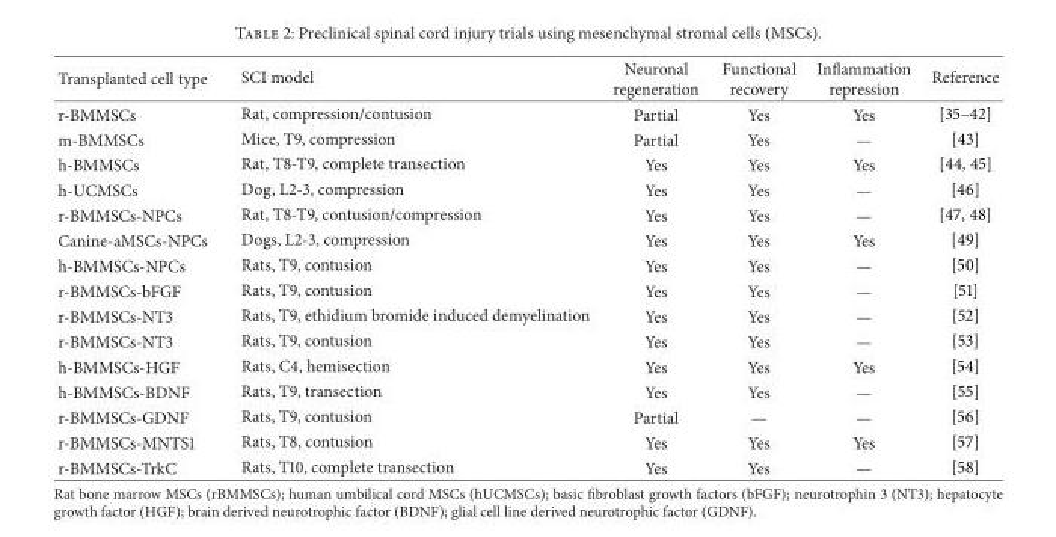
<table><thead><tr><td>Transplanted cell type</td><td>SCI model</td><td>Neuronal regeneration</td><td>Functional recovery</td><td>Inflammation repression</td><td>Reference</td></tr></thead><tbody><tr><td>r-BMMSCs</td><td>Rat, compression/contusion</td><td>Partial</td><td>Yes</td><td>Yes</td><td>[35–42]</td></tr><tr><td>m-BMMSCs</td><td>Mice, T9, compression</td><td>Partial</td><td>Yes</td><td>—</td><td>[43]</td></tr><tr><td>h-BMMSCs</td><td>Rat, T8-T9, complete transection</td><td>Yes</td><td>Yes</td><td>Yes</td><td>[44, 45]</td></tr><tr><td>h-UCMSCs</td><td>Dog, L2-3, compression</td><td>Yes</td><td>Yes</td><td>—</td><td>[46]</td></tr><tr><td>r-BMMSCs-NPCs</td><td>Rat, T8-T9, contusion/compression</td><td>Yes</td><td>Yes</td><td>—</td><td>[47, 48]</td></tr><tr><td>Canine-aMSCs-NPCs</td><td>Dogs, L2-3, compression</td><td>Yes</td><td>Yes</td><td>Yes</td><td>[49]</td></tr><tr><td>h-BMMSCs-NPCs</td><td>Rats, T9, contusion</td><td>Yes</td><td>Yes</td><td>—</td><td>[50]</td></tr><tr><td>r-BMMSCs-bFGF</td><td>Rats, T9, contusion</td><td>Yes</td><td>Yes</td><td>—</td><td>[51]</td></tr><tr><td>r-BMMSCs-NT3</td><td>Rats, T9, ethidium bromide induced demyelination</td><td>Yes</td><td>Yes</td><td>—</td><td>[52]</td></tr><tr><td>r-BMMSCs-NT3</td><td>Rats, T9, contusion</td><td>Yes</td><td>Yes</td><td>—</td><td>[53]</td></tr><tr><td>h-BMMSCs-HGF</td><td>Rats, C4, hemisection</td><td>Yes</td><td>Yes</td><td>Yes</td><td>[54]</td></tr><tr><td>h-BMMSCs-BDNF</td><td>Rats, T9, transection</td><td>Yes</td><td>Yes</td><td>—</td><td>[55]</td></tr><tr><td>r-BMMSCs-GDNF</td><td>Rats, T9, contusion</td><td>Partial</td><td>—</td><td>—</td><td>[56]</td></tr><tr><td>r-BMMSCs-MNTS1</td><td>Rats, T8, contusion</td><td>Yes</td><td>Yes</td><td>Yes</td><td>[57]</td></tr><tr><td>r-BMMSCs-TrkC</td><td>Rats, T10, complete transection</td><td>Yes</td><td>Yes</td><td>—</td><td>[58]</td></tr></tbody></table>